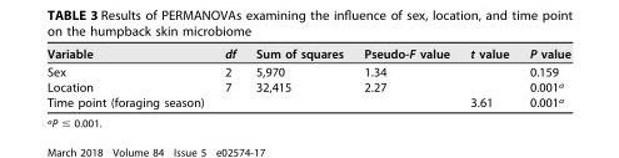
<table><thead><tr><td>Variable</td><td>df</td><td>Sum of squares</td><td>Pseudo-F value</td><td>t value</td><td>P value</td></tr></thead><tbody><tr><td>Sex</td><td>2</td><td>5,970</td><td>1.34</td><td></td><td>0.159</td></tr><tr><td>Location</td><td>7</td><td>32,415</td><td>2.27</td><td></td><td>0.001<sup>a</sup></td></tr><tr><td>Time point (foraging season)</td><td></td><td></td><td></td><td>3.61</td><td>0.001<sup>a</sup></td></tr></tbody></table>